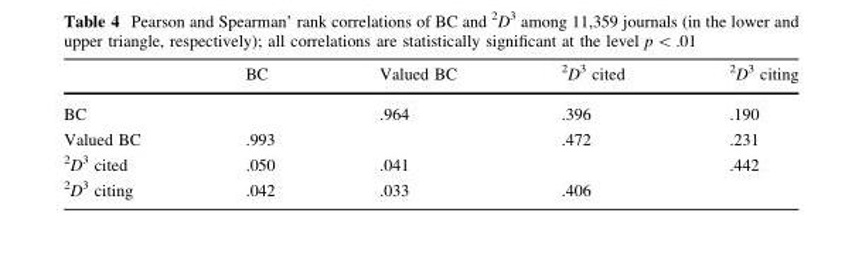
<table><thead><tr><td></td><td>BC</td><td>Valued BC</td><td><sup>2</sup>D<sup>3</sup> cited</td><td><sup>2</sup>D<sup>3</sup> citing</td></tr></thead><tbody><tr><td>BC</td><td></td><td>.964</td><td>.396</td><td>.190</td></tr><tr><td>Valued BC</td><td>.993</td><td></td><td>.472</td><td>.231</td></tr><tr><td><sup>2</sup>D<sup>3</sup> cited</td><td>.050</td><td>.041</td><td></td><td>.442</td></tr><tr><td><sup>2</sup>D<sup>3</sup> citing</td><td>.042</td><td>.033</td><td>.406</td><td></td></tr></tbody></table>